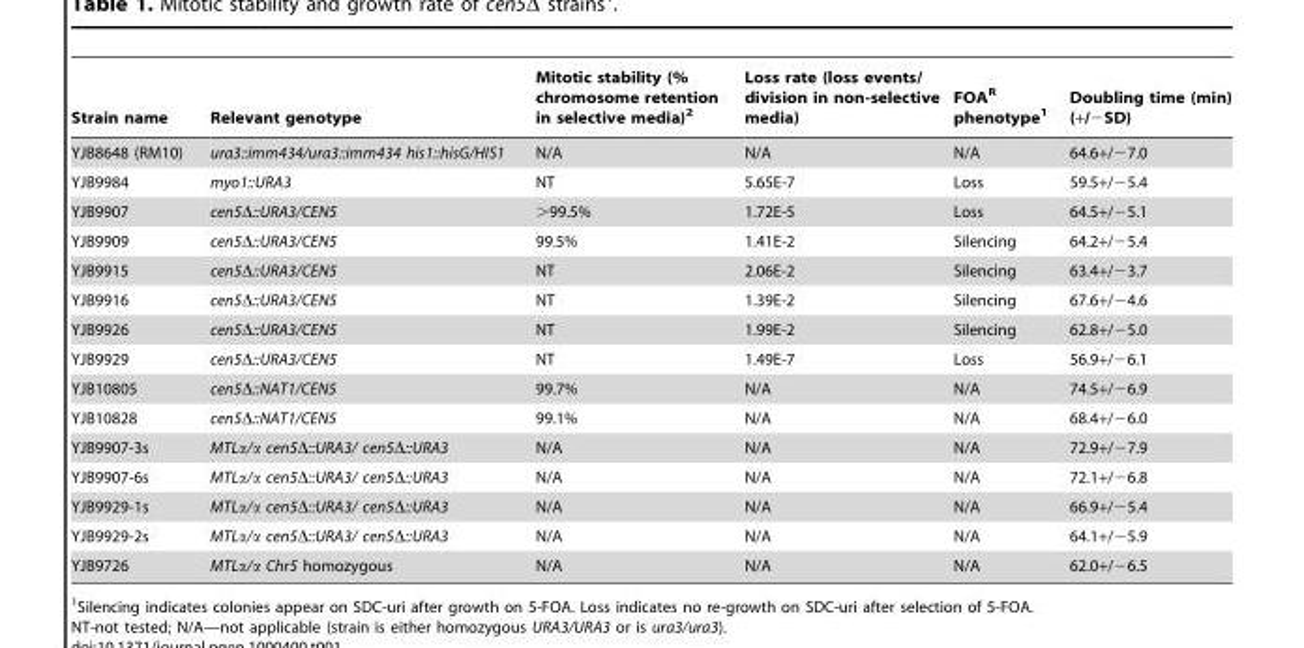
<table><thead><tr><td>Strain name</td><td>Relevant genotype</td><td>Mitotic stability (% chromosome retention in selective media)<sup>2</sup></td><td>Loss rate (loss events/ division in non-selective media)</td><td>FOA<sup>R</sup> phenotype<sup>1</sup></td><td>Doubling time (min) (+/−SD)</td></tr></thead><tbody><tr><td>YJB8648 (RM10)</td><td>ura3::imm434/ura3::imm434 his1::hisG/HIS1</td><td>N/A</td><td>N/A</td><td>N/A</td><td>64.6+/−7.0</td></tr><tr><td>YJB9984</td><td>myo1::URA3</td><td>NT</td><td>5.65E-7</td><td>Loss</td><td>59.5+/−5.4</td></tr><tr><td>YJB9907</td><td>cen5Δ::URA3/CEN5</td><td>&gt;99.5%</td><td>1.72E-5</td><td>Loss</td><td>64.5+/−5.1</td></tr><tr><td>YJB9909</td><td>cen5Δ::URA3/CEN5</td><td>99.5%</td><td>1.41E-2</td><td>Silencing</td><td>64.2+/−5.4</td></tr><tr><td>YJB9915</td><td>cen5Δ::URA3/CEN5</td><td>NT</td><td>2.06E-2</td><td>Silencing</td><td>63.4+/−3.7</td></tr><tr><td>YJB9916</td><td>cen5Δ::URA3/CEN5</td><td>NT</td><td>1.39E-2</td><td>Silencing</td><td>67.6+/−4.6</td></tr><tr><td>YJB9926</td><td>cen5Δ::URA3/CEN5</td><td>NT</td><td>1.99E-2</td><td>Silencing</td><td>62.8+/−5.0</td></tr><tr><td>YJB9929</td><td>cen5Δ::URA3/CEN5</td><td>NT</td><td>1.49E-7</td><td>Loss</td><td>56.9+/−6.1</td></tr><tr><td>YJB10805</td><td>cen5Δ::NAT1/CEN5</td><td>99.7%</td><td>N/A</td><td>N/A</td><td>74.5+/−6.9</td></tr><tr><td>YJB10828</td><td>cen5Δ::NAT1/CEN5</td><td>99.1%</td><td>N/A</td><td>N/A</td><td>68.4+/−6.0</td></tr><tr><td>YJB9907-3s</td><td>MTLα/α cen5Δ::URA3/ cen5Δ::URA3</td><td>N/A</td><td>N/A</td><td>N/A</td><td>72.9+/−7.9</td></tr><tr><td>YJB9907-6s</td><td>MTLα/α cen5Δ::URA3/ cen5Δ::URA3</td><td>N/A</td><td>N/A</td><td>N/A</td><td>72.1+/−6.8</td></tr><tr><td>YJB9929-1s</td><td>MTLα/α cen5Δ::URA3/ cen5Δ::URA3</td><td>N/A</td><td>N/A</td><td>N/A</td><td>66.9+/−5.4</td></tr><tr><td>YJB9929-2s</td><td>MTLα/α cen5Δ::URA3/ cen5Δ::URA3</td><td>N/A</td><td>N/A</td><td>N/A</td><td>64.1+/−5.9</td></tr><tr><td>YJB9726</td><td>MTLα/α Chr5 homozygous</td><td>N/A</td><td>N/A</td><td>N/A</td><td>62.0+/−6.5</td></tr></tbody></table>